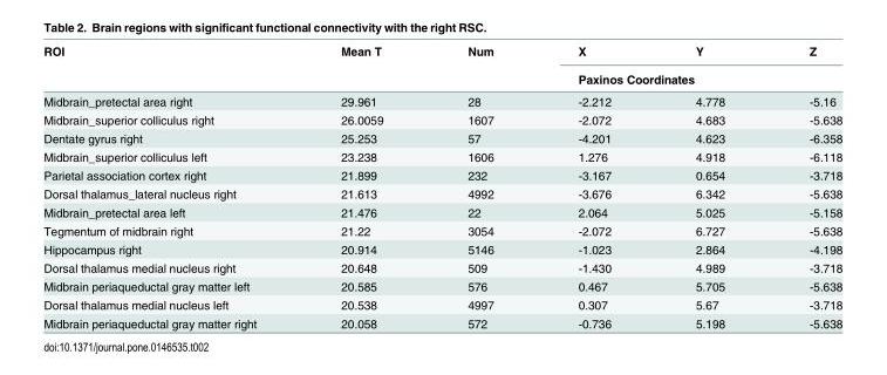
<table><thead><tr><td rowspan="2">ROI</td><td rowspan="2">Mean T</td><td rowspan="2">Num</td><td>X</td><td>Y</td><td>Z</td></tr><tr><td colspan="3">Paxinos Coordinates</td></tr></thead><tbody><tr><td>Midbrain_pretectal area right</td><td>29.961</td><td>28</td><td>-2.212</td><td>4.778</td><td>-5.16</td></tr><tr><td>Midbrain_superior colliculus right</td><td>26.0059</td><td>1607</td><td>-2.072</td><td>4.683</td><td>-5.638</td></tr><tr><td>Dentate gyrus right</td><td>25.253</td><td>57</td><td>-4.201</td><td>4.623</td><td>-6.358</td></tr><tr><td>Midbrain_superior colliculus left</td><td>23.238</td><td>1606</td><td>1.276</td><td>4.918</td><td>-6.118</td></tr><tr><td>Parietal association cortex right</td><td>21.899</td><td>232</td><td>-3.167</td><td>0.654</td><td>-3.718</td></tr><tr><td>Dorsal thalamus_lateral nucleus right</td><td>21.613</td><td>4992</td><td>-3.676</td><td>6.342</td><td>-5.638</td></tr><tr><td>Midbrain_pretectal area left</td><td>21.476</td><td>22</td><td>2.064</td><td>5.025</td><td>-5.158</td></tr><tr><td>Tegmentum of midbrain right</td><td>21.22</td><td>3054</td><td>-2.072</td><td>6.727</td><td>-5.638</td></tr><tr><td>Hippocampus right</td><td>20.914</td><td>5146</td><td>-1.023</td><td>2.864</td><td>-4.198</td></tr><tr><td>Dorsal thalamus medial nucleus right</td><td>20.648</td><td>509</td><td>-1.430</td><td>4.989</td><td>-3.718</td></tr><tr><td>Midbrain periaqueductal gray matter left</td><td>20.585</td><td>576</td><td>0.467</td><td>5.705</td><td>-5.638</td></tr><tr><td>Dorsal thalamus medial nucleus left</td><td>20.538</td><td>4997</td><td>0.307</td><td>5.67</td><td>-3.718</td></tr><tr><td>Midbrain periaqueductal gray matter right</td><td>20.058</td><td>572</td><td>-0.736</td><td>5.198</td><td>-5.638</td></tr></tbody></table>